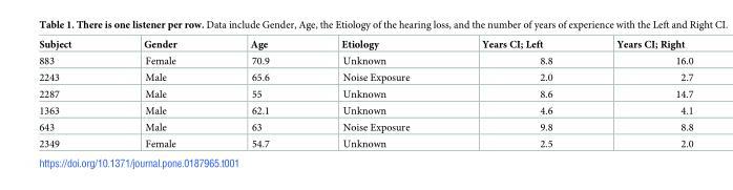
<table><thead><tr><td>Subject</td><td>Gender</td><td>Age</td><td>Etiology</td><td>Years CI; Left</td><td>Years CI; Right</td></tr></thead><tbody><tr><td>883</td><td>Female</td><td>70.9</td><td>Unknown</td><td>8.8</td><td>16.0</td></tr><tr><td>2243</td><td>Male</td><td>65.6</td><td>Noise Exposure</td><td>2.0</td><td>2.7</td></tr><tr><td>2287</td><td>Male</td><td>55</td><td>Unknown</td><td>8.6</td><td>14.7</td></tr><tr><td>1363</td><td>Male</td><td>62.1</td><td>Unknown</td><td>4.6</td><td>4.1</td></tr><tr><td>643</td><td>Male</td><td>63</td><td>Noise Exposure</td><td>9.8</td><td>8.8</td></tr><tr><td>2349</td><td>Female</td><td>54.7</td><td>Unknown</td><td>2.5</td><td>2.0</td></tr></tbody></table>